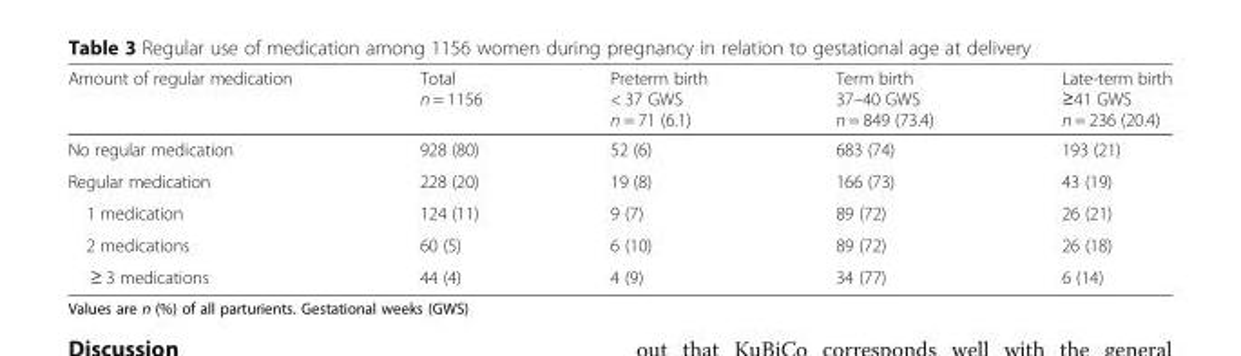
<table><thead><tr><td>Amount of regular medication</td><td>Total n = 1156</td><td>Preterm birth &lt; 37 GWS n = 71 (6.1)</td><td>Term birth 37–40 GWS n = 849 (73.4)</td><td>Late-term birth ≥41 GWS n = 236 (20.4)</td></tr></thead><tbody><tr><td>No regular medication</td><td>928 (80)</td><td>52 (6)</td><td>683 (74)</td><td>193 (21)</td></tr><tr><td>Regular medication</td><td>228 (20)</td><td>19 (8)</td><td>166 (73)</td><td>43 (19)</td></tr><tr><td>1 medication</td><td>124 (11)</td><td>9 (7)</td><td>89 (72)</td><td>26 (21)</td></tr><tr><td>2 medications</td><td>60 (5)</td><td>6 (10)</td><td>89 (72)</td><td>26 (18)</td></tr><tr><td>≥ 3 medications</td><td>44 (4)</td><td>4 (9)</td><td>34 (77)</td><td>6 (14)</td></tr></tbody></table>